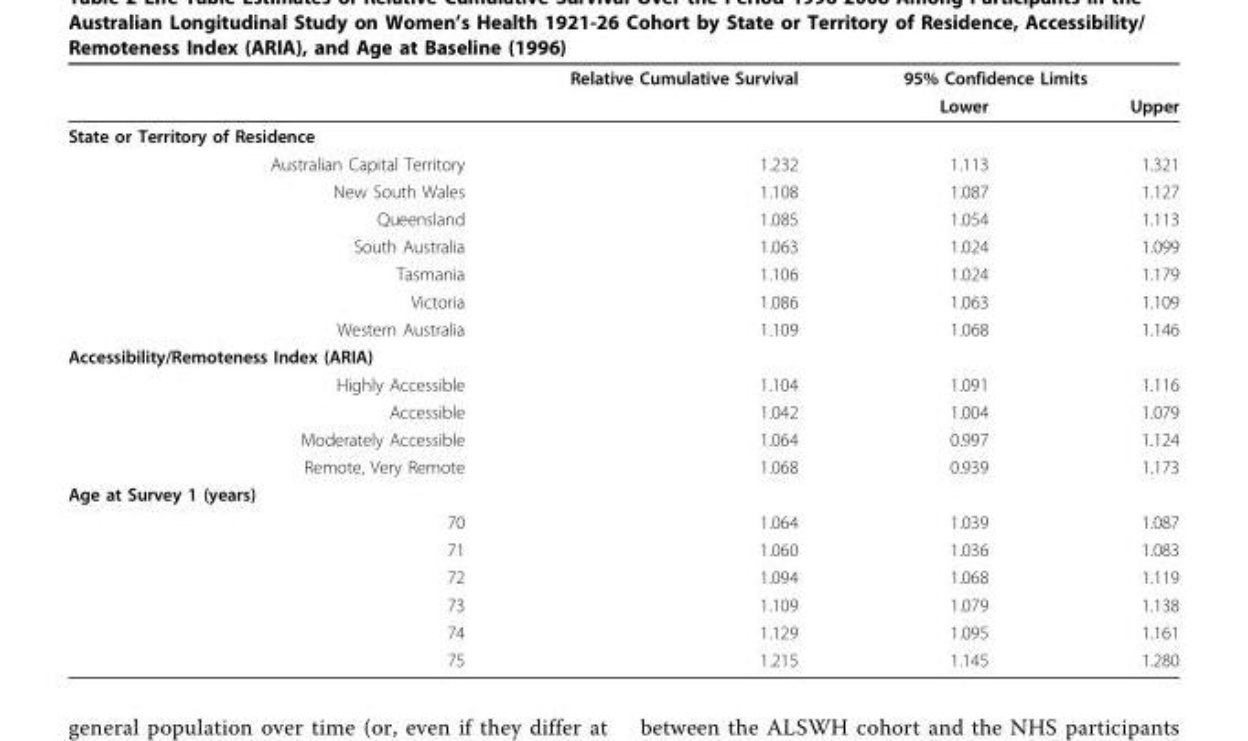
<table><thead><tr><td rowspan="2"></td><td rowspan="2">Relative Cumulative Survival</td><td colspan="2">95% Confidence Limits</td></tr><tr><td>Lower</td><td>Upper</td></tr></thead><tbody><tr><td colspan="4">State or Territory of Residence</td></tr><tr><td>Australian Capital Territory</td><td>1.232</td><td>1.113</td><td>1.321</td></tr><tr><td>New South Wales</td><td>1.108</td><td>1.087</td><td>1.127</td></tr><tr><td>Queensland</td><td>1.085</td><td>1.054</td><td>1.113</td></tr><tr><td>South Australia</td><td>1.063</td><td>1.024</td><td>1.099</td></tr><tr><td>Tasmania</td><td>1.106</td><td>1.024</td><td>1.179</td></tr><tr><td>Victoria</td><td>1.086</td><td>1.063</td><td>1.109</td></tr><tr><td>Western Australia</td><td>1.109</td><td>1.068</td><td>1.146</td></tr><tr><td colspan="4">Accessibility/Remoteness Index (ARIA)</td></tr><tr><td>Highly Accessible</td><td>1.104</td><td>1.091</td><td>1.116</td></tr><tr><td>Accessible</td><td>1.042</td><td>1.004</td><td>1.079</td></tr><tr><td>Moderately Accessible</td><td>1.064</td><td>0.997</td><td>1.124</td></tr><tr><td>Remote, Very Remote</td><td>1.068</td><td>0.939</td><td>1.173</td></tr><tr><td colspan="4">Age at Survey 1 (years)</td></tr><tr><td>70</td><td>1.064</td><td>1.039</td><td>1.087</td></tr><tr><td>71</td><td>1.060</td><td>1.036</td><td>1.083</td></tr><tr><td>72</td><td>1.094</td><td>1.068</td><td>1.119</td></tr><tr><td>73</td><td>1.109</td><td>1.079</td><td>1.138</td></tr><tr><td>74</td><td>1.129</td><td>1.095</td><td>1.161</td></tr><tr><td>75</td><td>1.215</td><td>1.145</td><td>1.280</td></tr></tbody></table>